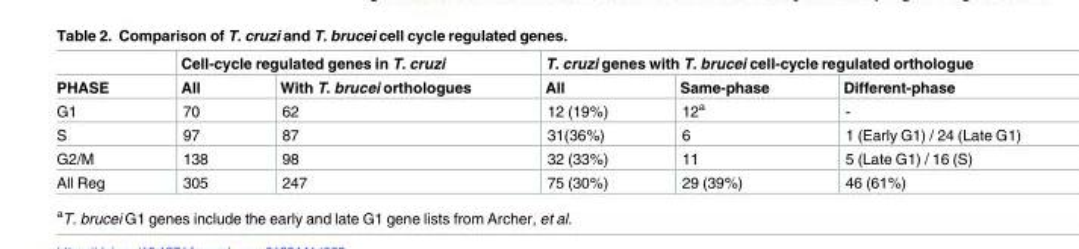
<table><thead><tr><td rowspan="2">PHASE</td><td colspan="2">Cell-cycle regulated genes in T. cruzi</td><td colspan="3">T. cruzi genes with T. brucei cell-cycle regulated orthologue</td></tr><tr><td>All</td><td>With T. brucei orthologues</td><td>All</td><td>Same-phase</td><td>Different-phase</td></tr></thead><tbody><tr><td>G1</td><td>70</td><td>62</td><td>12 (19%)</td><td>12<sup>a</sup></td><td>-</td></tr><tr><td>S</td><td>97</td><td>87</td><td>31(36%)</td><td>6</td><td>1 (Early G1) / 24 (Late G1)</td></tr><tr><td>G2/M</td><td>138</td><td>98</td><td>32 (33%)</td><td>11</td><td>5 (Late G1) / 16 (S)</td></tr><tr><td>All Reg</td><td>305</td><td>247</td><td>75 (30%)</td><td>29 (39%)</td><td>46 (61%)</td></tr></tbody></table>